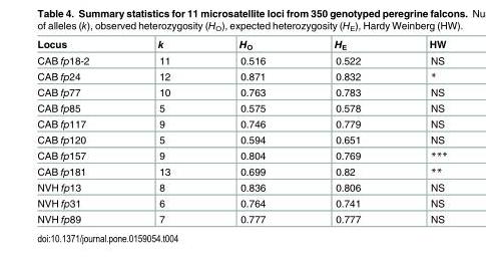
<table><thead><tr><td>Locus</td><td>k</td><td>H<sub>O</sub></td><td>H<sub>E</sub></td><td>HW</td></tr></thead><tbody><tr><td>CAB fp18-2</td><td>11</td><td>0.516</td><td>0.522</td><td>NS</td></tr><tr><td>CAB fp24</td><td>12</td><td>0.871</td><td>0.832</td><td>*</td></tr><tr><td>CAB fp77</td><td>10</td><td>0.763</td><td>0.783</td><td>NS</td></tr><tr><td>CAB fp85</td><td>5</td><td>0.575</td><td>0.578</td><td>NS</td></tr><tr><td>CAB fp117</td><td>9</td><td>0.746</td><td>0.779</td><td>NS</td></tr><tr><td>CAB fp120</td><td>5</td><td>0.594</td><td>0.651</td><td>NS</td></tr><tr><td>CAB fp157</td><td>9</td><td>0.804</td><td>0.769</td><td>***</td></tr><tr><td>CAB fp181</td><td>13</td><td>0.699</td><td>0.82</td><td>**</td></tr><tr><td>NVH fp13</td><td>8</td><td>0.836</td><td>0.806</td><td>NS</td></tr><tr><td>NVH fp31</td><td>6</td><td>0.764</td><td>0.741</td><td>NS</td></tr><tr><td>NVH fp89</td><td>7</td><td>0.777</td><td>0.777</td><td>NS</td></tr></tbody></table>